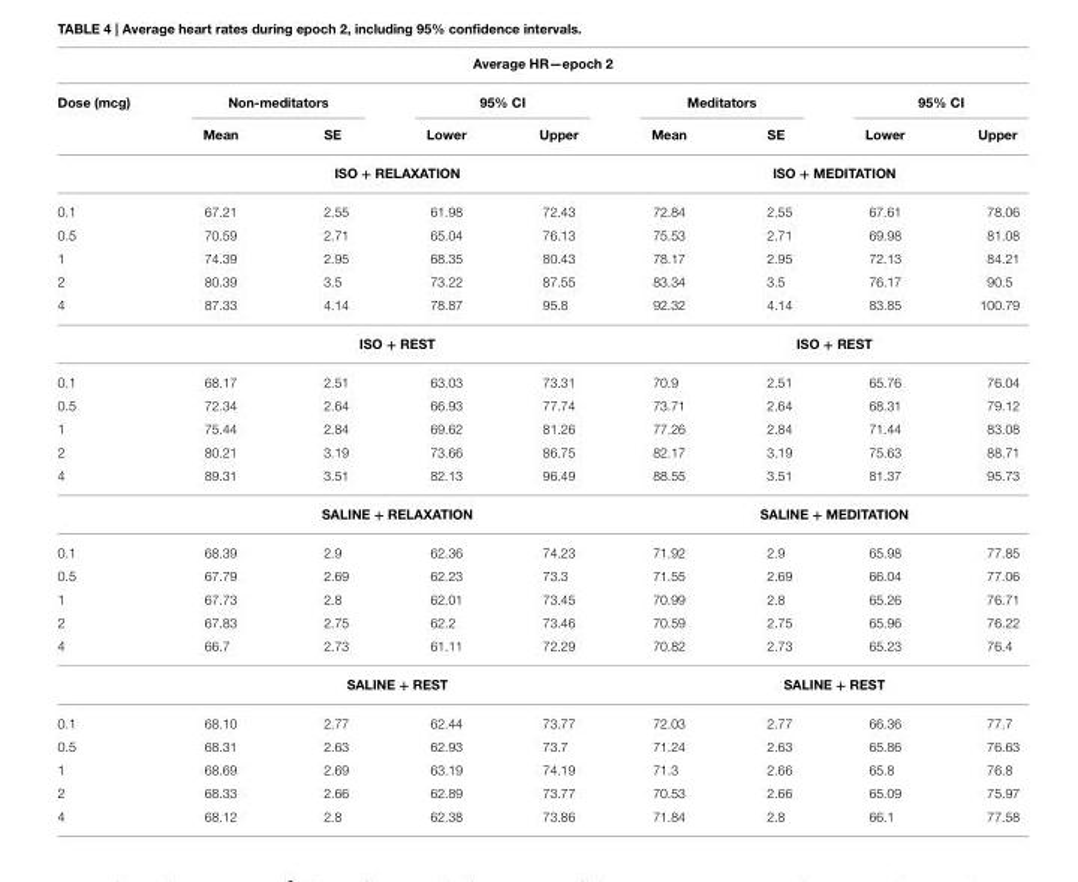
<table><thead><tr><td colspan="9">Average HR—epoch 2</td></tr><tr><td rowspan="2">Dose (mcg)</td><td colspan="2">Non-meditators</td><td colspan="2">95% CI</td><td colspan="2">Meditators</td><td colspan="2">95% CI</td></tr><tr><td>Mean</td><td>SE</td><td>Lower</td><td>Upper</td><td>Mean</td><td>SE</td><td>Lower</td><td>Upper</td></tr></thead><tbody><tr><td colspan="5">ISO + RELAXATION</td><td colspan="4">ISO + MEDITATION</td></tr><tr><td>0.1</td><td>67.21</td><td>2.55</td><td>61.98</td><td>72.43</td><td>72.84</td><td>2.55</td><td>67.61</td><td>78.06</td></tr><tr><td>0.5</td><td>70.59</td><td>2.71</td><td>65.04</td><td>76.13</td><td>75.53</td><td>2.71</td><td>69.98</td><td>81.08</td></tr><tr><td>1</td><td>74.39</td><td>2.95</td><td>68.35</td><td>80.43</td><td>78.17</td><td>2.95</td><td>72.13</td><td>84.21</td></tr><tr><td>2</td><td>80.39</td><td>3.5</td><td>73.22</td><td>87.55</td><td>83.34</td><td>3.5</td><td>76.17</td><td>90.5</td></tr><tr><td>4</td><td>87.33</td><td>4.14</td><td>78.87</td><td>95.8</td><td>92.32</td><td>4.14</td><td>83.85</td><td>100.79</td></tr><tr><td colspan="5">ISO + REST</td><td colspan="4">ISO + REST</td></tr><tr><td>0.1</td><td>68.17</td><td>2.51</td><td>63.03</td><td>73.31</td><td>70.9</td><td>2.51</td><td>65.76</td><td>76.04</td></tr><tr><td>0.5</td><td>72.34</td><td>2.64</td><td>66.93</td><td>77.74</td><td>73.71</td><td>2.64</td><td>68.31</td><td>79.12</td></tr><tr><td>1</td><td>75.44</td><td>2.84</td><td>69.62</td><td>81.26</td><td>77.26</td><td>2.84</td><td>71.44</td><td>83.08</td></tr><tr><td>2</td><td>80.21</td><td>3.19</td><td>73.66</td><td>86.75</td><td>82.17</td><td>3.19</td><td>75.63</td><td>88.71</td></tr><tr><td>4</td><td>89.31</td><td>3.51</td><td>82.13</td><td>96.49</td><td>88.55</td><td>3.51</td><td>81.37</td><td>95.73</td></tr><tr><td colspan="5">SALINE + RELAXATION</td><td colspan="4">SALINE + MEDITATION</td></tr><tr><td>0.1</td><td>68.39</td><td>2.9</td><td>62.36</td><td>74.23</td><td>71.92</td><td>2.9</td><td>65.98</td><td>77.85</td></tr><tr><td>0.5</td><td>67.79</td><td>2.69</td><td>62.23</td><td>73.3</td><td>71.55</td><td>2.69</td><td>66.04</td><td>77.06</td></tr><tr><td>1</td><td>67.73</td><td>2.8</td><td>62.01</td><td>73.45</td><td>70.99</td><td>2.8</td><td>65.26</td><td>76.71</td></tr><tr><td>2</td><td>67.83</td><td>2.75</td><td>62.2</td><td>73.46</td><td>70.59</td><td>2.75</td><td>65.96</td><td>76.22</td></tr><tr><td>4</td><td>66.7</td><td>2.73</td><td>61.11</td><td>72.29</td><td>70.82</td><td>2.73</td><td>65.23</td><td>76.4</td></tr><tr><td colspan="5">SALINE + REST</td><td colspan="4">SALINE + REST</td></tr><tr><td>0.1</td><td>68.10</td><td>2.77</td><td>62.44</td><td>73.77</td><td>72.03</td><td>2.77</td><td>66.36</td><td>77.7</td></tr><tr><td>0.5</td><td>68.31</td><td>2.63</td><td>62.93</td><td>73.7</td><td>71.24</td><td>2.63</td><td>65.86</td><td>76.63</td></tr><tr><td>1</td><td>68.69</td><td>2.69</td><td>63.19</td><td>74.19</td><td>71.3</td><td>2.66</td><td>65.8</td><td>76.8</td></tr><tr><td>2</td><td>68.33</td><td>2.66</td><td>62.89</td><td>73.77</td><td>70.53</td><td>2.66</td><td>65.09</td><td>75.97</td></tr><tr><td>4</td><td>68.12</td><td>2.8</td><td>62.38</td><td>73.86</td><td>71.84</td><td>2.8</td><td>66.1</td><td>77.58</td></tr></tbody></table>